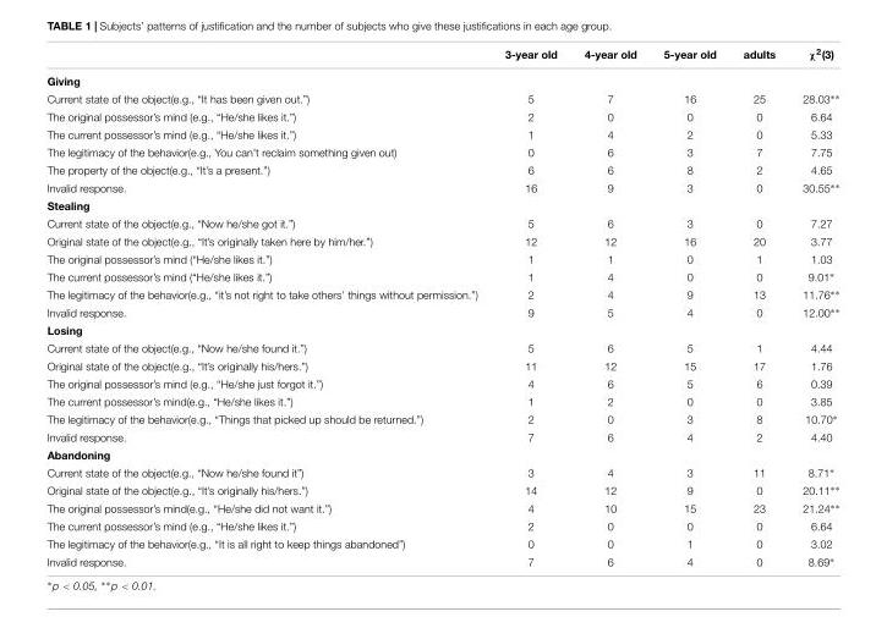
<table><thead><tr><td></td><td>3-year old</td><td>4-year old</td><td>5-year old</td><td>adults</td><td>χ<sup>2</sup>(3)</td></tr></thead><tbody><tr><td colspan="6">Giving</td></tr><tr><td>Current state of the object(e.g., “It has been given out.”)</td><td>5</td><td>7</td><td>16</td><td>25</td><td>28.03∗∗</td></tr><tr><td>The original possessor’s mind (e.g., “He/she likes it.”)</td><td>2</td><td>0</td><td>0</td><td>0</td><td>6.64</td></tr><tr><td>The current possessor’s mind (e.g., “He/she likes it.”)</td><td>1</td><td>4</td><td>2</td><td>0</td><td>5.33</td></tr><tr><td>The legitimacy of the behavior(e.g., You can’t reclaim something given out)</td><td>0</td><td>6</td><td>3</td><td>7</td><td>7.75</td></tr><tr><td>The property of the object(e.g., “It’s a present.”)</td><td>6</td><td>6</td><td>8</td><td>2</td><td>4.65</td></tr><tr><td>Invalid response.</td><td>16</td><td>9</td><td>3</td><td>0</td><td>30.55∗∗</td></tr><tr><td colspan="6">Stealing</td></tr><tr><td>Current state of the object(e.g., “Now he/she got it.”)</td><td>5</td><td>6</td><td>3</td><td>0</td><td>7.27</td></tr><tr><td>Original state of the object(e.g., “It’s originally taken here by him/her.”)</td><td>12</td><td>12</td><td>16</td><td>20</td><td>3.77</td></tr><tr><td>The original possessor’s mind (“He/she likes it.”)</td><td>1</td><td>1</td><td>0</td><td>1</td><td>1.03</td></tr><tr><td>The current possessor’s mind (“He/she likes it.”)</td><td>1</td><td>4</td><td>0</td><td>0</td><td>9.01∗</td></tr><tr><td>The legitimacy of the behavior(e.g., “it’s not right to take others’ things without permission.”)</td><td>2</td><td>4</td><td>9</td><td>13</td><td>11.76∗∗</td></tr><tr><td>Invalid response.</td><td>9</td><td>5</td><td>4</td><td>0</td><td>12.00∗∗</td></tr><tr><td colspan="6">Losing</td></tr><tr><td>Current state of the object(e.g., “Now he/she found it.”)</td><td>5</td><td>6</td><td>5</td><td>1</td><td>4.44</td></tr><tr><td>Original state of the object(e.g., “It’s originally his/hers.”)</td><td>11</td><td>12</td><td>15</td><td>17</td><td>1.76</td></tr><tr><td>The original possessor’s mind (e.g., “He/she just forgot it.”)</td><td>4</td><td>6</td><td>5</td><td>6</td><td>0.39</td></tr><tr><td>The current possessor’s mind(e.g., “He/she likes it.”)</td><td>1</td><td>2</td><td>0</td><td>0</td><td>3.85</td></tr><tr><td>The legitimacy of the behavior(e.g., “Things that picked up should be returned.”)</td><td>2</td><td>0</td><td>3</td><td>8</td><td>10.70∗</td></tr><tr><td>Invalid response.</td><td>7</td><td>6</td><td>4</td><td>2</td><td>4.40</td></tr><tr><td colspan="6">Abandoning</td></tr><tr><td>Current state of the object(e.g., “Now he/she found it”)</td><td>3</td><td>4</td><td>3</td><td>11</td><td>8.71∗</td></tr><tr><td>Original state of the object(e.g., “It’s originally his/hers.”)</td><td>14</td><td>12</td><td>9</td><td>0</td><td>20.11∗∗</td></tr><tr><td>The original possessor’s mind(e.g., “He/she did not want it.”)</td><td>4</td><td>10</td><td>15</td><td>23</td><td>21.24∗∗</td></tr><tr><td>The current possessor’s mind (e.g., “He/she likes it.”)</td><td>2</td><td>0</td><td>0</td><td>0</td><td>6.64</td></tr><tr><td>The legitimacy of the behavior(e.g., “It is all right to keep things abandoned”)</td><td>0</td><td>0</td><td>1</td><td>0</td><td>3.02</td></tr><tr><td>Invalid response.</td><td>7</td><td>6</td><td>4</td><td>0</td><td>8.69∗</td></tr></tbody></table>